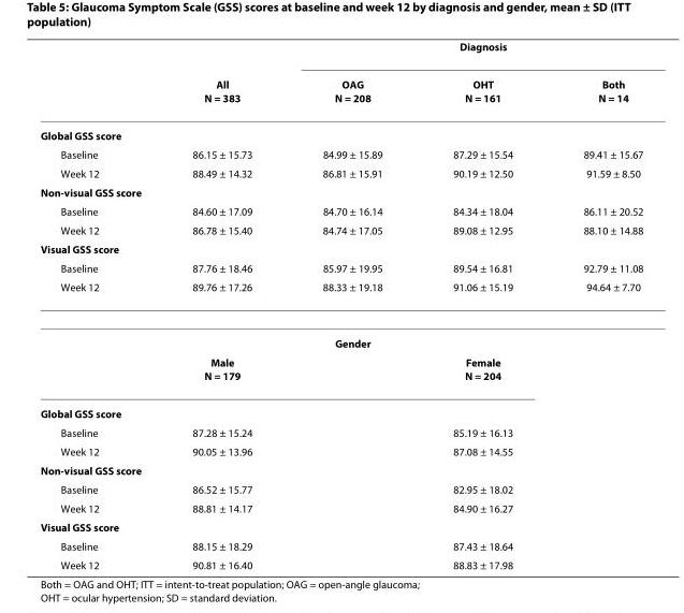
<table><thead><tr><td rowspan="2"></td><td rowspan="2">All N = 383</td><td colspan="3">Diagnosis</td></tr><tr><td>OAG N = 208</td><td>OHT N = 161</td><td>Both N = 14</td></tr></thead><tbody><tr><td colspan="5">Global GSS score</td></tr><tr><td>Baseline</td><td>86.15 ± 15.73</td><td>84.99 ± 15.89</td><td>87.29 ± 15.54</td><td>89.41 ± 15.67</td></tr><tr><td>Week 12</td><td>88.49 ± 14.32</td><td>86.81 ± 15.91</td><td>90.19 ± 12.50</td><td>91.59 ± 8.50</td></tr><tr><td colspan="5">Non-visual GSS score</td></tr><tr><td>Baseline</td><td>84.60 ± 17.09</td><td>84.70 ± 16.14</td><td>84.34 ± 18.04</td><td>86.11 ± 20.52</td></tr><tr><td>Week 12</td><td>86.78 ± 15.40</td><td>84.74 ± 17.05</td><td>89.08 ± 12.95</td><td>88.10 ± 14.88</td></tr><tr><td colspan="5">Visual GSS score</td></tr><tr><td>Baseline</td><td>87.76 ± 18.46</td><td>85.97 ± 19.95</td><td>89.54 ± 16.81</td><td>92.79 ± 11.08</td></tr><tr><td rowspan="3">Week 12</td><td>89.76 ± 17.26</td><td>88.33 ± 19.18</td><td>91.06 ± 15.19</td><td>94.64 ± 7.70</td></tr><tr><td colspan="3">Gender</td><td></td></tr><tr><td>Male N = 179</td><td></td><td>Female N = 204</td><td></td></tr><tr><td colspan="5">Global GSS score</td></tr><tr><td>Baseline</td><td>87.28 ± 15.24</td><td></td><td>85.19 ± 16.13</td><td></td></tr><tr><td>Week 12</td><td>90.05 ± 13.96</td><td></td><td>87.08 ± 14.55</td><td></td></tr><tr><td colspan="5">Non-visual GSS score</td></tr><tr><td>Baseline</td><td>86.52 ± 15.77</td><td></td><td>82.95 ± 18.02</td><td></td></tr><tr><td>Week 12</td><td>88.81 ± 14.17</td><td></td><td>84.90 ± 16.27</td><td></td></tr><tr><td colspan="5">Visual GSS score</td></tr><tr><td>Baseline</td><td>88.15 ± 18.29</td><td></td><td>87.43 ± 18.64</td><td></td></tr><tr><td>Week 12</td><td>90.81 ± 16.40</td><td></td><td>88.83 ± 17.98</td><td></td></tr></tbody></table>